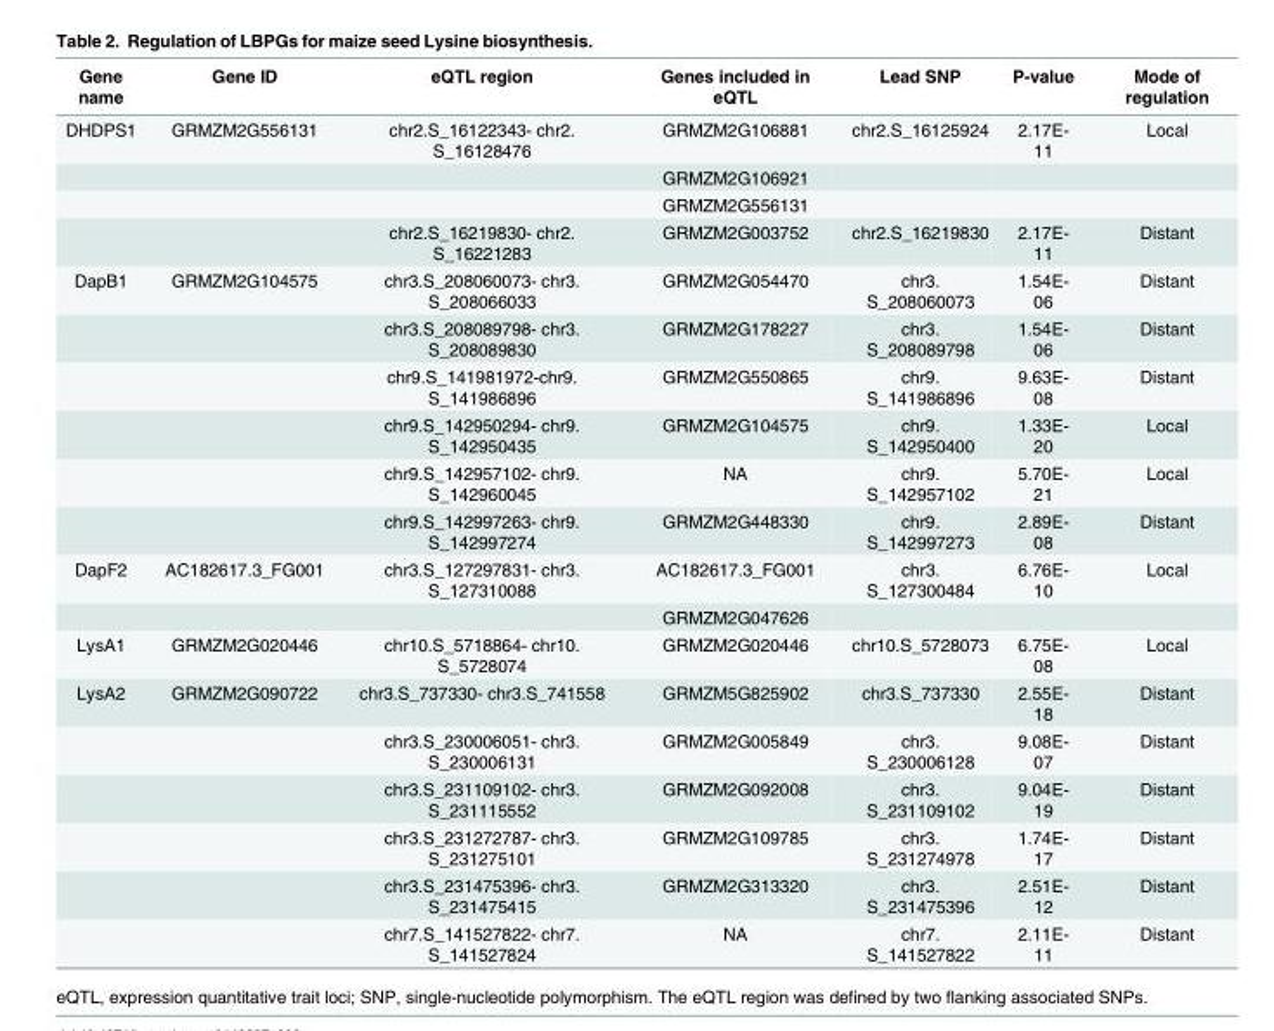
<table><thead><tr><td>Gene name</td><td>Gene ID</td><td>eQTL region</td><td>Genes included in eQTL</td><td>Lead SNP</td><td>P-value</td><td>Mode of regulation</td></tr></thead><tbody><tr><td rowspan="4">DHDPS1</td><td>GRMZM2G556131</td><td>chr2.S_16122343- chr2. S_16128476</td><td>GRMZM2G106881</td><td>chr2.S_16125924</td><td>2.17E- 11</td><td>Local</td></tr><tr><td></td><td></td><td>GRMZM2G106921</td><td></td><td></td><td></td></tr><tr><td></td><td></td><td>GRMZM2G556131</td><td></td><td></td><td></td></tr><tr><td></td><td>chr2.S_16219830- chr2. S_16221283</td><td>GRMZM2G003752</td><td>chr2.S_16219830</td><td>2.17E- 11</td><td>Distant</td></tr><tr><td rowspan="6">DapB1</td><td>GRMZM2G104575</td><td>chr3.S_208060073- chr3. S_208066033</td><td>GRMZM2G054470</td><td>chr3. S_208060073</td><td>1.54E- 06</td><td>Distant</td></tr><tr><td></td><td>chr3.S_208089798- chr3. S_208089830</td><td>GRMZM2G178227</td><td>chr3. S_208089798</td><td>1.54E- 06</td><td>Distant</td></tr><tr><td></td><td>chr9.S_141981972-chr9. S_141986896</td><td>GRMZM2G550865</td><td>chr9. S_141986896</td><td>9.63E- 08</td><td>Distant</td></tr><tr><td></td><td>chr9.S_142950294- chr9. S_142950435</td><td>GRMZM2G104575</td><td>chr9. S_142950400</td><td>1.33E- 20</td><td>Local</td></tr><tr><td></td><td>chr9.S_142957102- chr9. S_142960045</td><td>NA</td><td>chr9. S_142957102</td><td>5.70E- 21</td><td>Local</td></tr><tr><td></td><td>chr9.S_142997263- chr9. S_142997274</td><td>GRMZM2G448330</td><td>chr9. S_142997273</td><td>2.89E- 08</td><td>Distant</td></tr><tr><td rowspan="2">DapF2</td><td>AC182617.3_FG001</td><td>chr3.S_127297831- chr3. S_127310088</td><td>AC182617.3_FG001</td><td>chr3. S_127300484</td><td>6.76E- 10</td><td>Local</td></tr><tr><td></td><td></td><td>GRMZM2G047626</td><td></td><td></td><td></td></tr><tr><td>LysA1</td><td>GRMZM2G020446</td><td>chr10.S_5718864- chr10. S_5728074</td><td>GRMZM2G020446</td><td>chr10.S_5728073</td><td>6.75E- 08</td><td>Local</td></tr><tr><td rowspan="6">LysA2</td><td>GRMZM2G090722</td><td>chr3.S_737330- chr3.S_741558</td><td>GRMZM5G825902</td><td>chr3.S_737330</td><td>2.55E- 18</td><td>Distant</td></tr><tr><td></td><td>chr3.S_230006051- chr3. S_230006131</td><td>GRMZM2G005849</td><td>chr3. S_230006128</td><td>9.08E- 07</td><td>Distant</td></tr><tr><td></td><td>chr3.S_231109102- chr3. S_231115552</td><td>GRMZM2G092008</td><td>chr3. S_231109102</td><td>9.04E- 19</td><td>Distant</td></tr><tr><td></td><td>chr3.S_231272787- chr3. S_231275101</td><td>GRMZM2G109785</td><td>chr3. S_231274978</td><td>1.74E- 17</td><td>Distant</td></tr><tr><td></td><td>chr3.S_231475396- chr3. S_231475415</td><td>GRMZM2G313320</td><td>chr3. S_231475396</td><td>2.51E- 12</td><td>Distant</td></tr><tr><td></td><td>chr7.S_141527822- chr7. S_141527824</td><td>NA</td><td>chr7. S_141527822</td><td>2.11E- 11</td><td>Distant</td></tr></tbody></table>